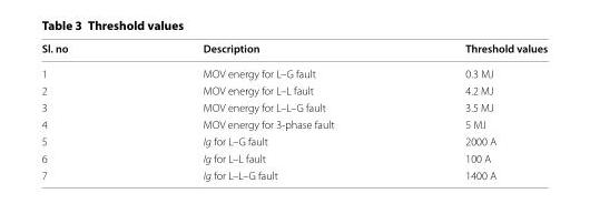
<table><thead><tr><td>Sl. no</td><td>Description</td><td>Threshold values</td></tr></thead><tbody><tr><td>1</td><td>MOV energy for L–G fault</td><td>0.3 MJ</td></tr><tr><td>2</td><td>MOV energy for L–L fault</td><td>4.2 MJ</td></tr><tr><td>3</td><td>MOV energy for L–L–G fault</td><td>3.5 MJ</td></tr><tr><td>4</td><td>MOV energy for 3-phase fault</td><td>5 MJ</td></tr><tr><td>5</td><td>Ig for L–G fault</td><td>2000 A</td></tr><tr><td>6</td><td>Ig for L–L fault</td><td>100 A</td></tr><tr><td>7</td><td>Ig for L–L–G fault</td><td>1400 A</td></tr></tbody></table>